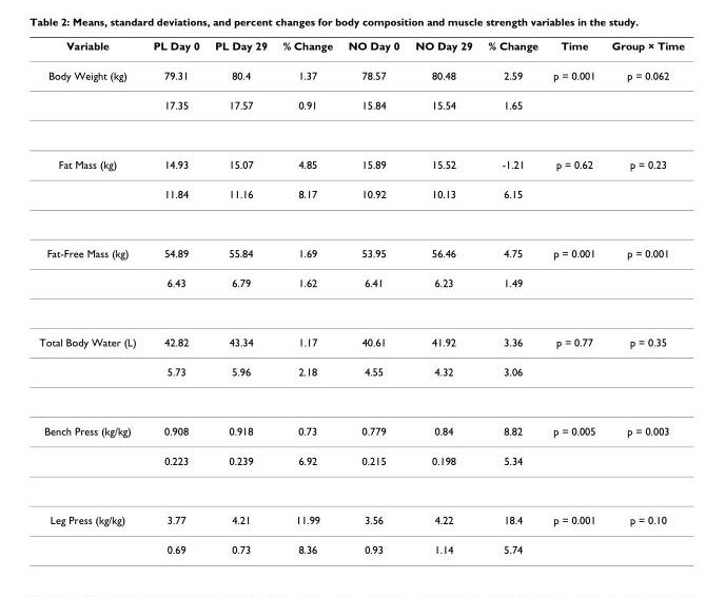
<table><thead><tr><td>Variable</td><td>PL Day 0</td><td>PL Day 29</td><td>% Change</td><td>NO Day 0</td><td>NO Day 29</td><td>% Change</td><td>Time</td><td>Group × Time</td></tr></thead><tbody><tr><td rowspan="2">Body Weight (kg)</td><td>79.31</td><td>80.4</td><td>1.37</td><td>78.57</td><td>80.48</td><td>2.59</td><td>p = 0.001</td><td>p = 0.062</td></tr><tr><td>17.35</td><td>17.57</td><td>0.91</td><td>15.84</td><td>15.54</td><td>1.65</td><td></td><td></td></tr><tr><td rowspan="2">Fat Mass (kg)</td><td>14.93</td><td>15.07</td><td>4.85</td><td>15.89</td><td>15.52</td><td>-1.21</td><td>p = 0.62</td><td>p = 0.23</td></tr><tr><td>11.84</td><td>11.16</td><td>8.17</td><td>10.92</td><td>10.13</td><td>6.15</td><td></td><td></td></tr><tr><td rowspan="2">Fat-Free Mass (kg)</td><td>54.89</td><td>55.84</td><td>1.69</td><td>53.95</td><td>56.46</td><td>4.75</td><td>p = 0.001</td><td>p = 0.001</td></tr><tr><td>6.43</td><td>6.79</td><td>1.62</td><td>6.41</td><td>6.23</td><td>1.49</td><td></td><td></td></tr><tr><td rowspan="2">Total Body Water (L)</td><td>42.82</td><td>43.34</td><td>1.17</td><td>40.61</td><td>41.92</td><td>3.36</td><td>p = 0.77</td><td>p = 0.35</td></tr><tr><td>5.73</td><td>5.96</td><td>2.18</td><td>4.55</td><td>4.32</td><td>3.06</td><td></td><td></td></tr><tr><td rowspan="2">Bench Press (kg/kg)</td><td>0.908</td><td>0.918</td><td>0.73</td><td>0.779</td><td>0.84</td><td>8.82</td><td>p = 0.005</td><td>p = 0.003</td></tr><tr><td>0.223</td><td>0.239</td><td>6.92</td><td>0.215</td><td>0.198</td><td>5.34</td><td></td><td></td></tr><tr><td rowspan="2">Leg Press (kg/kg)</td><td>3.77</td><td>4.21</td><td>11.99</td><td>3.56</td><td>4.22</td><td>18.4</td><td>p = 0.001</td><td>p = 0.10</td></tr><tr><td>0.69</td><td>0.73</td><td>8.36</td><td>0.93</td><td>1.14</td><td>5.74</td><td></td><td></td></tr></tbody></table>